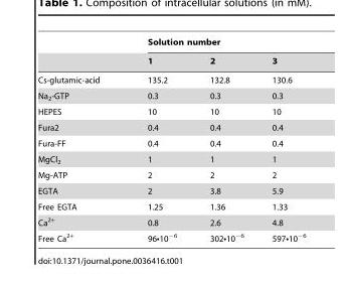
<table><thead><tr><td rowspan="2"></td><td colspan="3">Solution number</td></tr><tr><td>1</td><td>2</td><td>3</td></tr></thead><tbody><tr><td>Cs-glutamic-acid</td><td>135.2</td><td>132.8</td><td>130.6</td></tr><tr><td>Na<sub>2</sub>-GTP</td><td>0.3</td><td>0.3</td><td>0.3</td></tr><tr><td>HEPES</td><td>10</td><td>10</td><td>10</td></tr><tr><td>Fura2</td><td>0.4</td><td>0.4</td><td>0.4</td></tr><tr><td>Fura-FF</td><td>0.4</td><td>0.4</td><td>0.4</td></tr><tr><td>MgCl<sub>2</sub></td><td>1</td><td>1</td><td>1</td></tr><tr><td>Mg-ATP</td><td>2</td><td>2</td><td>2</td></tr><tr><td>EGTA</td><td>2</td><td>3.8</td><td>5.9</td></tr><tr><td>Free EGTA</td><td>1.25</td><td>1.36</td><td>1.33</td></tr><tr><td>Ca<sup>2+</sup></td><td>0.8</td><td>2.6</td><td>4.8</td></tr><tr><td>Free Ca<sup>2+</sup></td><td>96•10<sup>−6</sup></td><td>302•10<sup>−6</sup></td><td>597•10<sup>−6</sup></td></tr></tbody></table>